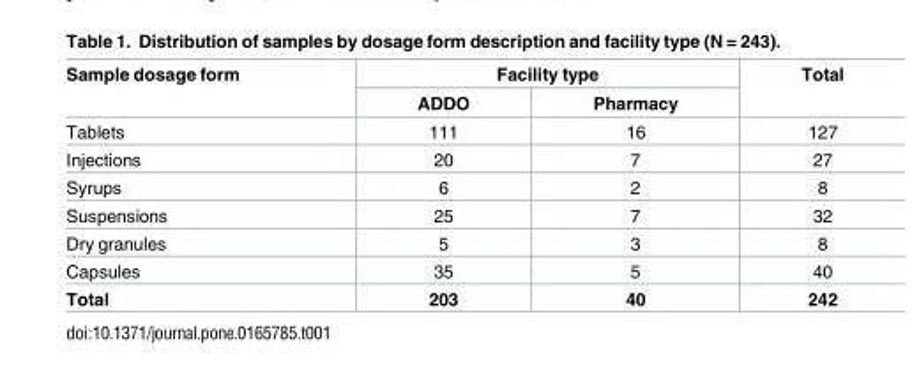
<table><thead><tr><td rowspan="2">Sample dosage form</td><td colspan="2">Facility type</td><td rowspan="2">Total</td></tr><tr><td>ADDO</td><td>Pharmacy</td></tr></thead><tbody><tr><td>Tablets</td><td>111</td><td>16</td><td>127</td></tr><tr><td>Injections</td><td>20</td><td>7</td><td>27</td></tr><tr><td>Syrups</td><td>6</td><td>2</td><td>8</td></tr><tr><td>Suspensions</td><td>25</td><td>7</td><td>32</td></tr><tr><td>Dry granules</td><td>5</td><td>3</td><td>8</td></tr><tr><td>Capsules</td><td>35</td><td>5</td><td>40</td></tr><tr><td>Total</td><td>203</td><td>40</td><td>242</td></tr></tbody></table>